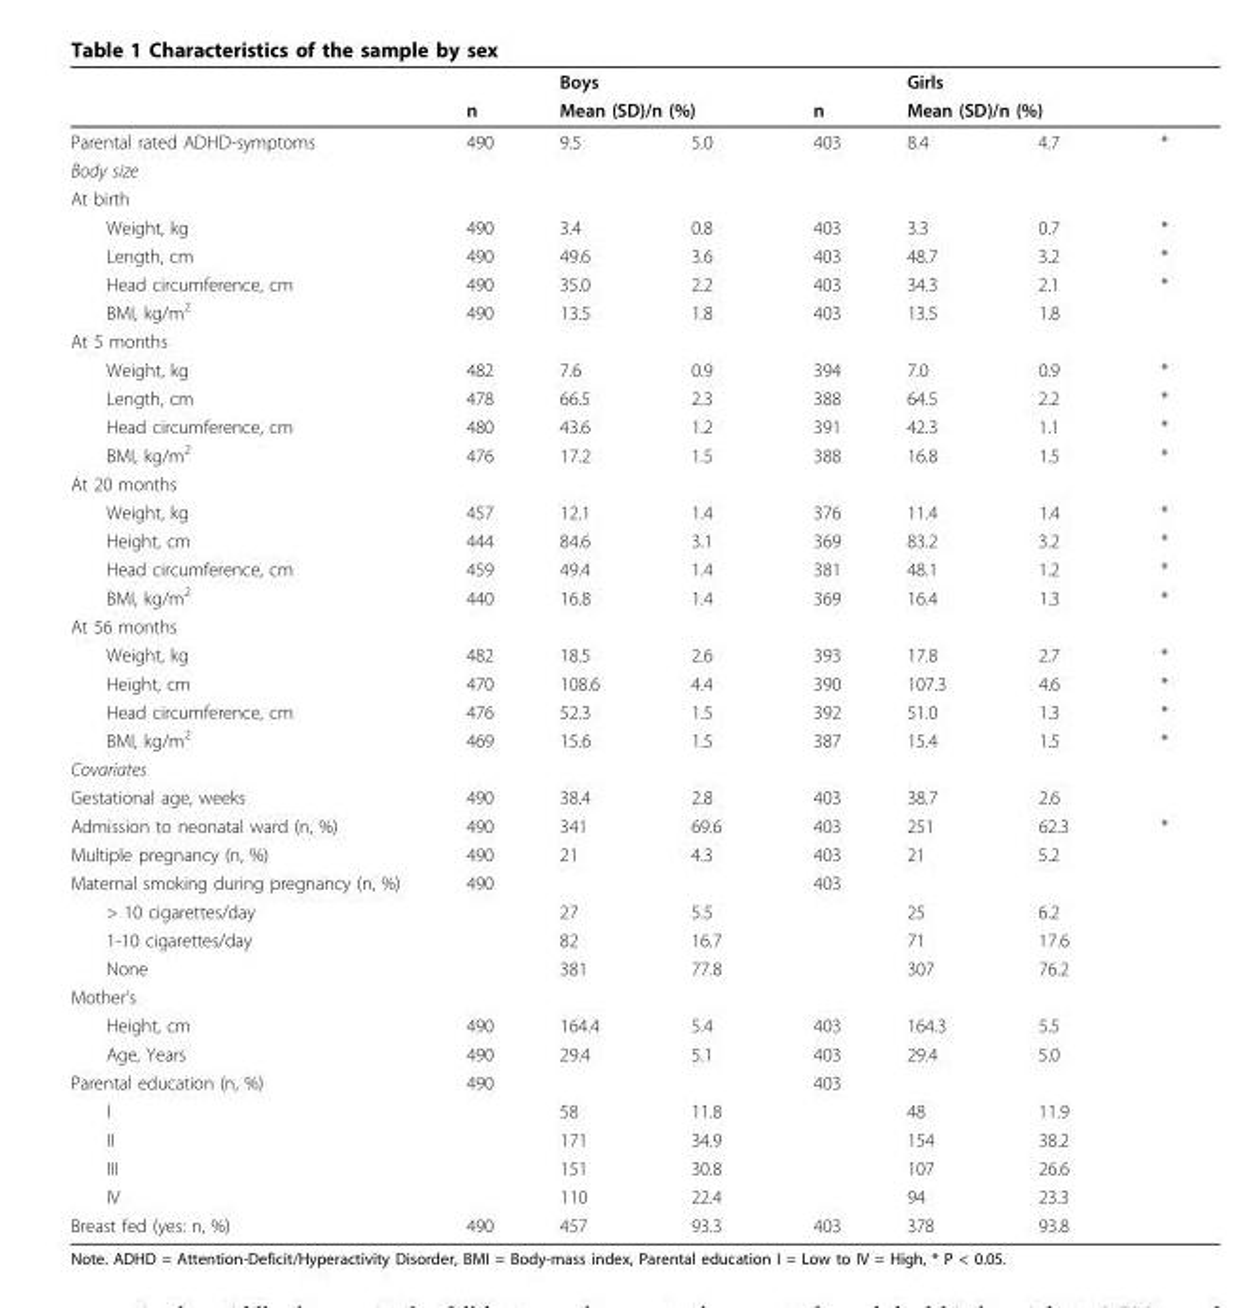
<table><thead><tr><td rowspan="3">Parental rated ADHD-symptoms</td><td rowspan="3">n 490</td><td rowspan="2" colspan="2">Boys Mean (SD)/n (%)</td><td rowspan="3">n 403</td><td rowspan="2" colspan="2">Girls Mean (SD)/n (%)</td><td rowspan="3">*</td></tr><tr></tr><tr><td>9.5</td><td>5.0</td><td>8.4</td><td>4.7</td></tr></thead><tbody><tr><td colspan="8">Body size</td></tr><tr><td colspan="8">At birth</td></tr><tr><td>Weight, kg</td><td>490</td><td>3.4</td><td>0.8</td><td>403</td><td>3.3</td><td>0.7</td><td>*</td></tr><tr><td>Length, cm</td><td>490</td><td>49.6</td><td>3.6</td><td>403</td><td>48.7</td><td>3.2</td><td>*</td></tr><tr><td>Head circumference, cm</td><td>490</td><td>35.0</td><td>2.2</td><td>403</td><td>34.3</td><td>2.1</td><td>*</td></tr><tr><td>BMI, kg/m<sup>2</sup></td><td>490</td><td>13.5</td><td>1.8</td><td>403</td><td>13.5</td><td>1.8</td><td></td></tr><tr><td colspan="8">At 5 months</td></tr><tr><td>Weight, kg</td><td>482</td><td>7.6</td><td>0.9</td><td>394</td><td>7.0</td><td>0.9</td><td>*</td></tr><tr><td>Length, cm</td><td>478</td><td>66.5</td><td>2.3</td><td>388</td><td>64.5</td><td>2.2</td><td>*</td></tr><tr><td>Head circumference, cm</td><td>480</td><td>43.6</td><td>1.2</td><td>391</td><td>42.3</td><td>1.1</td><td>*</td></tr><tr><td>BMI, kg/m<sup>2</sup></td><td>476</td><td>17.2</td><td>1.5</td><td>388</td><td>16.8</td><td>1.5</td><td>*</td></tr><tr><td colspan="8">At 20 months</td></tr><tr><td>Weight, kg</td><td>457</td><td>12.1</td><td>1.4</td><td>376</td><td>11.4</td><td>1.4</td><td>*</td></tr><tr><td>Height, cm</td><td>444</td><td>84.6</td><td>3.1</td><td>369</td><td>83.2</td><td>3.2</td><td>*</td></tr><tr><td>Head circumference, cm</td><td>459</td><td>49.4</td><td>1.4</td><td>381</td><td>48.1</td><td>1.2</td><td>*</td></tr><tr><td>BMI, kg/m<sup>2</sup></td><td>440</td><td>16.8</td><td>1.4</td><td>369</td><td>16.4</td><td>1.3</td><td>*</td></tr><tr><td colspan="8">At 56 months</td></tr><tr><td>Weight, kg</td><td>482</td><td>18.5</td><td>2.6</td><td>393</td><td>17.8</td><td>2.7</td><td>*</td></tr><tr><td>Height, cm</td><td>470</td><td>108.6</td><td>4.4</td><td>390</td><td>107.3</td><td>4.6</td><td>*</td></tr><tr><td>Head circumference, cm</td><td>476</td><td>52.3</td><td>1.5</td><td>392</td><td>51.0</td><td>1.3</td><td>*</td></tr><tr><td>BMI, kg/m<sup>2</sup></td><td>469</td><td>15.6</td><td>1.5</td><td>387</td><td>15.4</td><td>1.5</td><td>*</td></tr><tr><td colspan="8">Covariates</td></tr><tr><td>Gestational age, weeks</td><td>490</td><td>38.4</td><td>2.8</td><td>403</td><td>38.7</td><td>2.6</td><td></td></tr><tr><td>Admission to neonatal ward (n, %)</td><td>490</td><td>341</td><td>69.6</td><td>403</td><td>251</td><td>62.3</td><td>*</td></tr><tr><td>Multiple pregnancy (n, %)</td><td>490</td><td>21</td><td>4.3</td><td>403</td><td>21</td><td>5.2</td><td></td></tr><tr><td>Maternal smoking during pregnancy (n, %)</td><td>490</td><td></td><td></td><td>403</td><td></td><td></td><td></td></tr><tr><td>&gt; 10 cigarettes/day</td><td></td><td>27</td><td>5.5</td><td></td><td>25</td><td>6.2</td><td></td></tr><tr><td>1-10 cigarettes/day</td><td></td><td>82</td><td>16.7</td><td></td><td>71</td><td>17.6</td><td></td></tr><tr><td>None</td><td></td><td>381</td><td>77.8</td><td></td><td>307</td><td>76.2</td><td></td></tr><tr><td colspan="8">Mother’s</td></tr><tr><td>Height, cm</td><td>490</td><td>164.4</td><td>5.4</td><td>403</td><td>164.3</td><td>5.5</td><td></td></tr><tr><td>Age, Years</td><td>490</td><td>29.4</td><td>5.1</td><td>403</td><td>29.4</td><td>5.0</td><td></td></tr><tr><td>Parental education (n, %)</td><td>490</td><td></td><td></td><td>403</td><td></td><td></td><td></td></tr><tr><td>I</td><td></td><td>58</td><td>11.8</td><td></td><td>48</td><td>11.9</td><td></td></tr><tr><td>II</td><td></td><td>171</td><td>34.9</td><td></td><td>154</td><td>38.2</td><td></td></tr><tr><td>III</td><td></td><td>151</td><td>30.8</td><td></td><td>107</td><td>26.6</td><td></td></tr><tr><td>IV</td><td></td><td>110</td><td>22.4</td><td></td><td>94</td><td>23.3</td><td></td></tr><tr><td>Breast fed (yes: n, %)</td><td>490</td><td>457</td><td>93.3</td><td>403</td><td>378</td><td>93.8</td><td></td></tr></tbody></table>